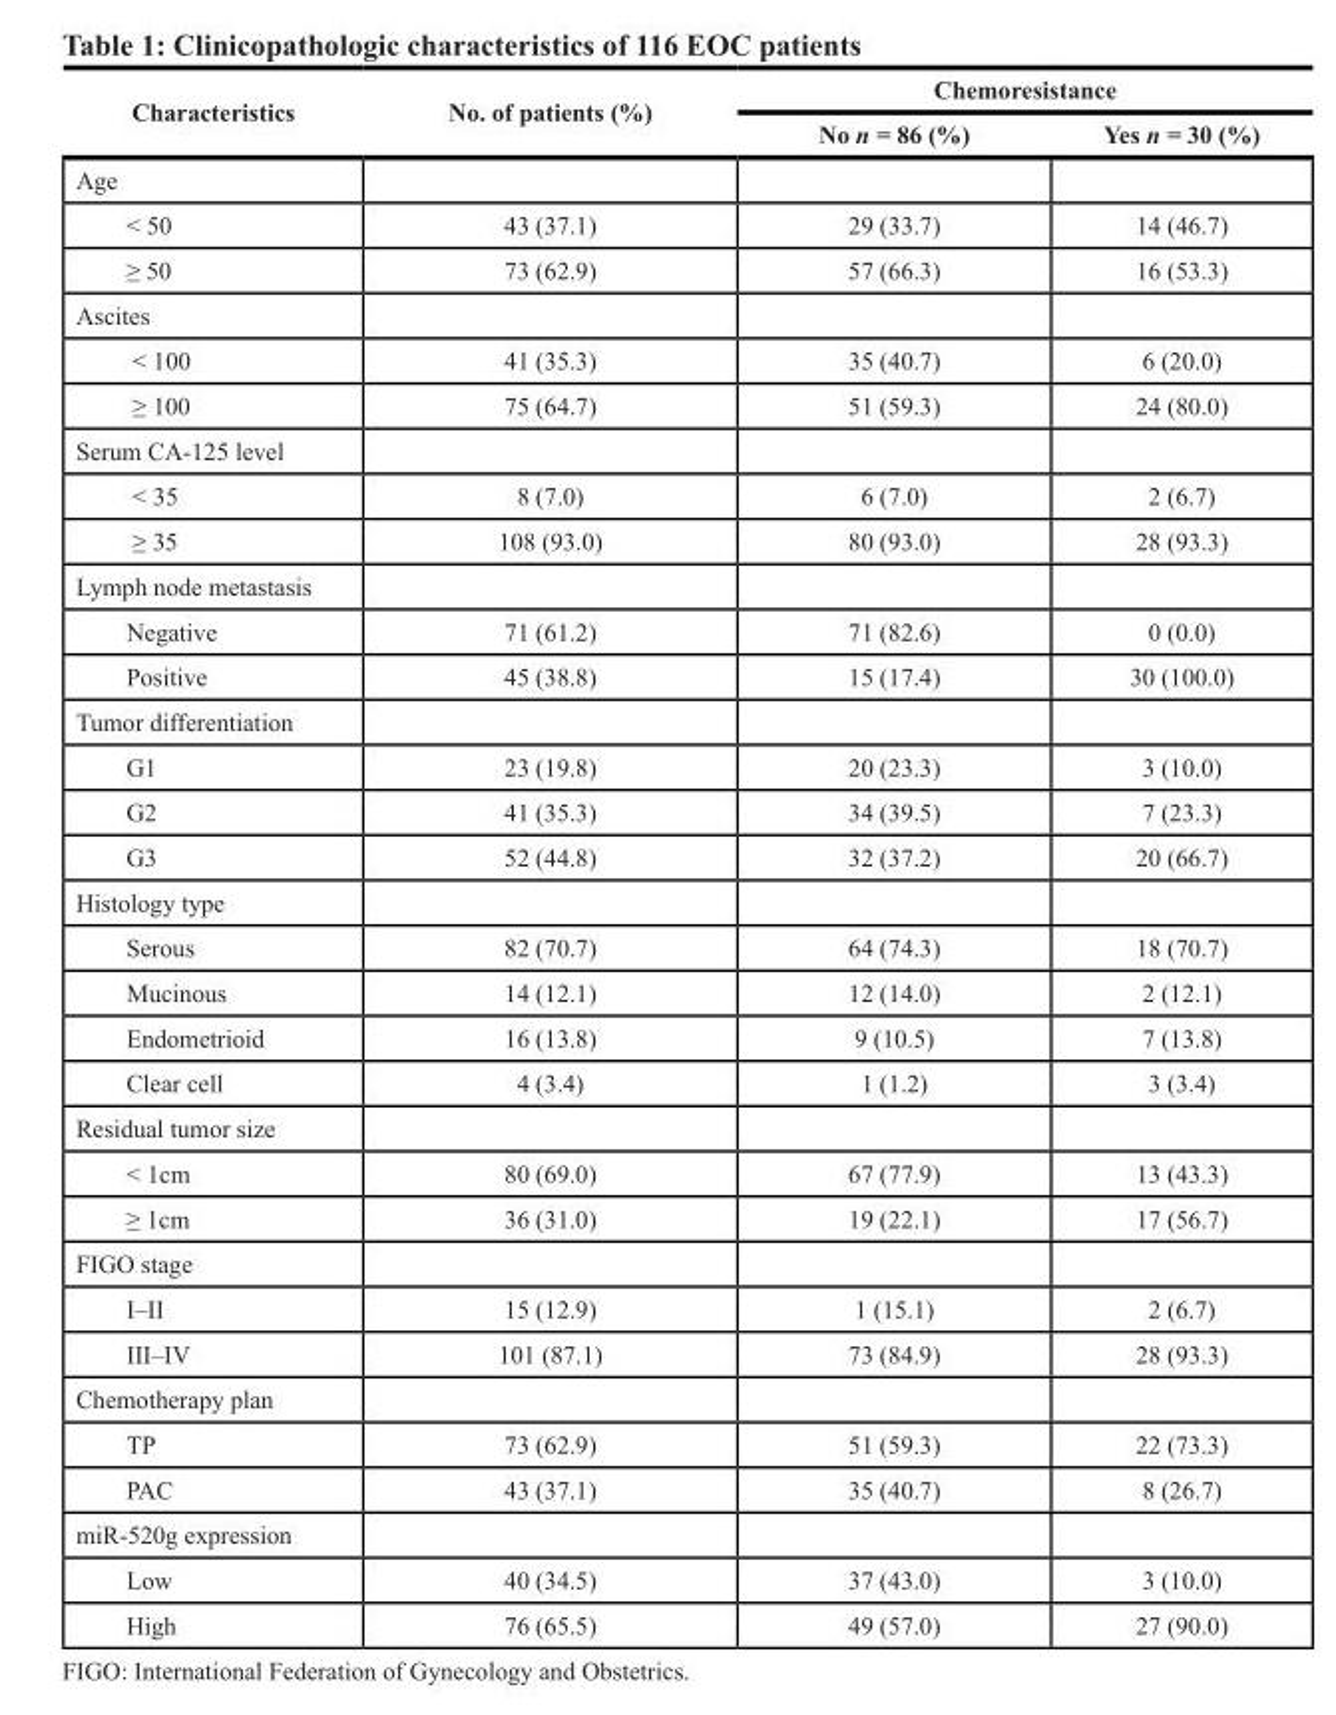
<table><thead><tr><td rowspan="2">Characteristics</td><td rowspan="2">No. of patients (%)</td><td colspan="2">Chemoresistance</td></tr><tr><td>No n = 86 (%)</td><td>Yes n = 30 (%)</td></tr></thead><tbody><tr><td colspan="4">Age</td></tr><tr><td>&lt; 50</td><td>43 (37.1)</td><td>29 (33.7)</td><td>14 (46.7)</td></tr><tr><td>≥ 50</td><td>73 (62.9)</td><td>57 (66.3)</td><td>16 (53.3)</td></tr><tr><td colspan="4">Ascites</td></tr><tr><td>&lt; 100</td><td>41 (35.3)</td><td>35 (40.7)</td><td>6 (20.0)</td></tr><tr><td>≥ 100</td><td>75 (64.7)</td><td>51 (59.3)</td><td>24 (80.0)</td></tr><tr><td colspan="4">Serum CA-125 level</td></tr><tr><td>&lt; 35</td><td>8 (7.0)</td><td>6 (7.0)</td><td>2 (6.7)</td></tr><tr><td>≥ 35</td><td>108 (93.0)</td><td>80 (93.0)</td><td>28 (93.3)</td></tr><tr><td colspan="4">Lymph node metastasis</td></tr><tr><td>Negative</td><td>71 (61.2)</td><td>71 (82.6)</td><td>0 (0.0)</td></tr><tr><td>Positive</td><td>45 (38.8)</td><td>15 (17.4)</td><td>30 (100.0)</td></tr><tr><td colspan="4">Tumor differentiation</td></tr><tr><td>G1</td><td>23 (19.8)</td><td>20 (23.3)</td><td>3 (10.0)</td></tr><tr><td>G2</td><td>41 (35.3)</td><td>34 (39.5)</td><td>7 (23.3)</td></tr><tr><td>G3</td><td>52 (44.8)</td><td>32 (37.2)</td><td>20 (66.7)</td></tr><tr><td colspan="4">Histology type</td></tr><tr><td>Serous</td><td>82 (70.7)</td><td>64 (74.3)</td><td>18 (70.7)</td></tr><tr><td>Mucinous</td><td>14 (12.1)</td><td>12 (14.0)</td><td>2 (12.1)</td></tr><tr><td>Endometrioid</td><td>16 (13.8)</td><td>9 (10.5)</td><td>7 (13.8)</td></tr><tr><td>Clear cell</td><td>4 (3.4)</td><td>1 (1.2)</td><td>3 (3.4)</td></tr><tr><td colspan="4">Residual tumor size</td></tr><tr><td>&lt; 1cm</td><td>80 (69.0)</td><td>67 (77.9)</td><td>13 (43.3)</td></tr><tr><td>≥ 1cm</td><td>36 (31.0)</td><td>19 (22.1)</td><td>17 (56.7)</td></tr><tr><td colspan="4">FIGO stage</td></tr><tr><td>I–II</td><td>15 (12.9)</td><td>1 (15.1)</td><td>2 (6.7)</td></tr><tr><td>III–IV</td><td>101 (87.1)</td><td>73 (84.9)</td><td>28 (93.3)</td></tr><tr><td colspan="4">Chemotherapy plan</td></tr><tr><td>TP</td><td>73 (62.9)</td><td>51 (59.3)</td><td>22 (73.3)</td></tr><tr><td>PAC</td><td>43 (37.1)</td><td>35 (40.7)</td><td>8 (26.7)</td></tr><tr><td colspan="4">miR-520g expression</td></tr><tr><td>Low</td><td>40 (34.5)</td><td>37 (43.0)</td><td>3 (10.0)</td></tr><tr><td>High</td><td>76 (65.5)</td><td>49 (57.0)</td><td>27 (90.0)</td></tr></tbody></table>